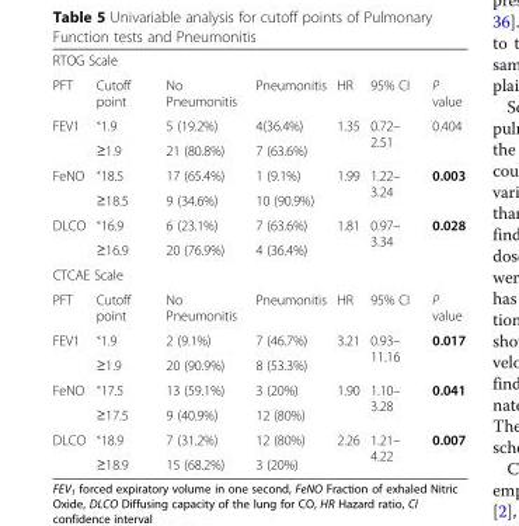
<table><tbody><tr><td colspan="7">RTOG Scale</td></tr><tr><td>PFT</td><td>Cutoff point</td><td>No Pneumonitis</td><td>Pneumonitis</td><td>HR</td><td>95% CI</td><td>P value</td></tr><tr><td rowspan="2">FEV1</td><td>˂1.9</td><td>5 (19.2%)</td><td>4(36.4%)</td><td rowspan="2">1.35</td><td rowspan="2">0.72– 2.51</td><td rowspan="2">0.404</td></tr><tr><td>≥1.9</td><td>21 (80.8%)</td><td>7 (63.6%)</td></tr><tr><td rowspan="2">FeNO</td><td>˂18.5</td><td>17 (65.4%)</td><td>1 (9.1%)</td><td rowspan="2">1.99</td><td rowspan="2">1.22– 3.24</td><td rowspan="2">0.003</td></tr><tr><td>≥18.5</td><td>9 (34.6%)</td><td>10 (90.9%)</td></tr><tr><td rowspan="2">DLCO</td><td>˂16.9</td><td>6 (23.1%)</td><td>7 (63.6%)</td><td rowspan="2">1.81</td><td rowspan="2">0.97– 3.34</td><td rowspan="2">0.028</td></tr><tr><td>≥16.9</td><td>20 (76.9%)</td><td>4 (36.4%)</td></tr><tr><td colspan="7">CTCAE Scale</td></tr><tr><td>PFT</td><td>Cutoff point</td><td>No Pneumonitis</td><td>Pneumonitis</td><td>HR</td><td>95% CI</td><td>P value</td></tr><tr><td rowspan="2">FEV1</td><td>˂1.9</td><td>2 (9.1%)</td><td>7 (46.7%)</td><td rowspan="2">3.21</td><td rowspan="2">0.93– 11.16</td><td rowspan="2">0.017</td></tr><tr><td>≥1.9</td><td>20 (90.9%)</td><td>8 (53.3%)</td></tr><tr><td rowspan="2">FeNO</td><td>˂17.5</td><td>13 (59.1%)</td><td>3 (20%)</td><td rowspan="2">1.90</td><td rowspan="2">1.10– 3.28</td><td rowspan="2">0.041</td></tr><tr><td>≥17.5</td><td>9 (40.9%)</td><td>12 (80%)</td></tr><tr><td rowspan="2">DLCO</td><td>˂18.9</td><td>7 (31.2%)</td><td>12 (80%)</td><td rowspan="2">2.26</td><td rowspan="2">1.21– 4.22</td><td rowspan="2">0.007</td></tr><tr><td>≥18.9</td><td>15 (68.2%)</td><td>3 (20%)</td></tr></tbody></table>